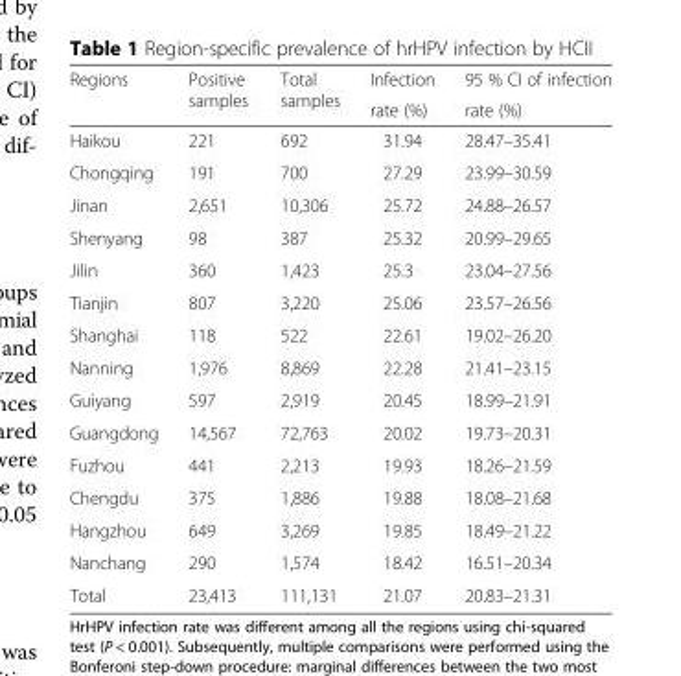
<table><thead><tr><td rowspan="2">Regions</td><td rowspan="2">Positive samples</td><td rowspan="2">Total samples</td><td rowspan="2">Infection rate (%)</td><td rowspan="2">95 % CI of infection rate (%)</td></tr><tr></tr></thead><tbody><tr><td>Haikou</td><td>221</td><td>692</td><td>31.94</td><td>28.47–35.41</td></tr><tr><td>Chongqing</td><td>191</td><td>700</td><td>27.29</td><td>23.99–30.59</td></tr><tr><td>Jinan</td><td>2,651</td><td>10,306</td><td>25.72</td><td>24.88–26.57</td></tr><tr><td>Shenyang</td><td>98</td><td>387</td><td>25.32</td><td>20.99–29.65</td></tr><tr><td>Jilin</td><td>360</td><td>1,423</td><td>25.3</td><td>23.04–27.56</td></tr><tr><td>Tianjin</td><td>807</td><td>3,220</td><td>25.06</td><td>23.57–26.56</td></tr><tr><td>Shanghai</td><td>118</td><td>522</td><td>22.61</td><td>19.02–26.20</td></tr><tr><td>Nanning</td><td>1,976</td><td>8,869</td><td>22.28</td><td>21.41–23.15</td></tr><tr><td>Guiyang</td><td>597</td><td>2,919</td><td>20.45</td><td>18.99–21.91</td></tr><tr><td>Guangdong</td><td>14,567</td><td>72,763</td><td>20.02</td><td>19.73–20.31</td></tr><tr><td>Fuzhou</td><td>441</td><td>2,213</td><td>19.93</td><td>18.26–21.59</td></tr><tr><td>Chengdu</td><td>375</td><td>1,886</td><td>19.88</td><td>18.08–21.68</td></tr><tr><td>Hangzhou</td><td>649</td><td>3,269</td><td>19.85</td><td>18.49–21.22</td></tr><tr><td>Nanchang</td><td>290</td><td>1,574</td><td>18.42</td><td>16.51–20.34</td></tr><tr><td>Total</td><td>23,413</td><td>111,131</td><td>21.07</td><td>20.83–21.31</td></tr></tbody></table>